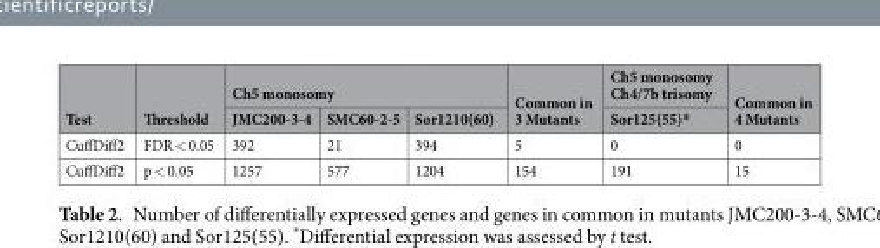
<table><thead><tr><td rowspan="2">Test</td><td rowspan="2">Threshold</td><td colspan="3">Ch5 monosomy</td><td rowspan="2">Common in 3 Mutants</td><td rowspan="2">Ch5 monosomy Ch4/7b trisomy Sor125(55)*</td><td rowspan="2">Common in 4 Mutants</td></tr><tr><td>JMC200-3-4</td><td>SMC60-2-5</td><td>Sor1210(60)</td></tr></thead><tbody><tr><td>CuffDiff2</td><td>FDR &lt; 0.05</td><td>392</td><td>21</td><td>394</td><td>5</td><td>0</td><td>0</td></tr><tr><td>CuffDiff2</td><td>p &lt; 0.05</td><td>1257</td><td>577</td><td>1204</td><td>154</td><td>191</td><td>15</td></tr></tbody></table>